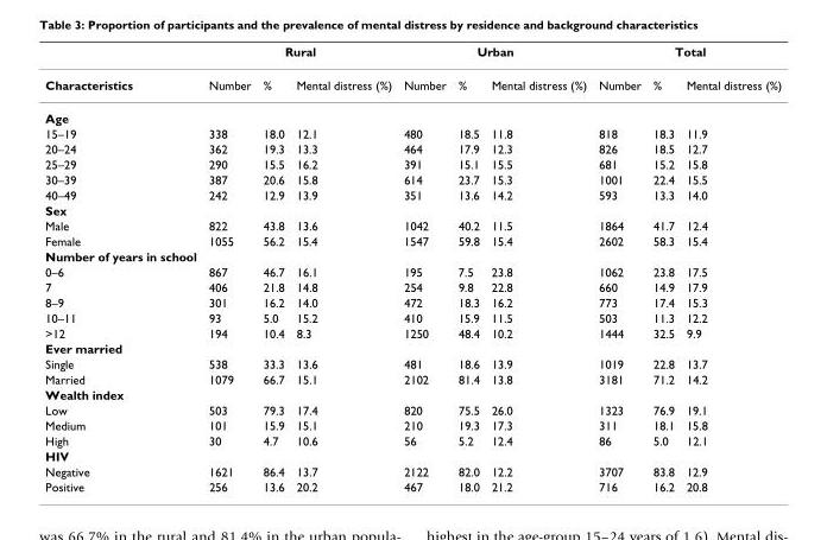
<table><thead><tr><td rowspan="2">Characteristics</td><td colspan="3">Rural</td><td colspan="3">Urban</td><td colspan="3">Total</td></tr><tr><td>Number</td><td>%</td><td>Mental distress (%)</td><td>Number</td><td>%</td><td>Mental distress (%)</td><td>Number</td><td>%</td><td>Mental distress (%)</td></tr></thead><tbody><tr><td colspan="10">Age</td></tr><tr><td>15–19</td><td>338</td><td>18.0</td><td>12.1</td><td>480</td><td>18.5</td><td>11.8</td><td>818</td><td>18.3</td><td>11.9</td></tr><tr><td>20–24</td><td>362</td><td>19.3</td><td>13.3</td><td>464</td><td>17.9</td><td>12.3</td><td>826</td><td>18.5</td><td>12.7</td></tr><tr><td>25–29</td><td>290</td><td>15.5</td><td>16.2</td><td>391</td><td>15.1</td><td>15.5</td><td>681</td><td>15.2</td><td>15.8</td></tr><tr><td>30–39</td><td>387</td><td>20.6</td><td>15.8</td><td>614</td><td>23.7</td><td>15.3</td><td>1001</td><td>22.4</td><td>15.5</td></tr><tr><td>40–49</td><td>242</td><td>12.9</td><td>13.9</td><td>351</td><td>13.6</td><td>14.2</td><td>593</td><td>13.3</td><td>14.0</td></tr><tr><td colspan="10">Sex</td></tr><tr><td>Male</td><td>822</td><td>43.8</td><td>13.6</td><td>1042</td><td>40.2</td><td>11.5</td><td>1864</td><td>41.7</td><td>12.4</td></tr><tr><td>Female</td><td>1055</td><td>56.2</td><td>15.4</td><td>1547</td><td>59.8</td><td>15.4</td><td>2602</td><td>58.3</td><td>15.4</td></tr><tr><td colspan="10">Number of years in school</td></tr><tr><td>0–6</td><td>867</td><td>46.7</td><td>16.1</td><td>195</td><td>7.5</td><td>23.8</td><td>1062</td><td>23.8</td><td>17.5</td></tr><tr><td>7</td><td>406</td><td>21.8</td><td>14.8</td><td>254</td><td>9.8</td><td>22.8</td><td>660</td><td>14.9</td><td>17.9</td></tr><tr><td>8–9</td><td>301</td><td>16.2</td><td>14.0</td><td>472</td><td>18.3</td><td>16.2</td><td>773</td><td>17.4</td><td>15.3</td></tr><tr><td>10–11</td><td>93</td><td>5.0</td><td>15.2</td><td>410</td><td>15.9</td><td>11.5</td><td>503</td><td>11.3</td><td>12.2</td></tr><tr><td>&gt;12</td><td>194</td><td>10.4</td><td>8.3</td><td>1250</td><td>48.4</td><td>10.2</td><td>1444</td><td>32.5</td><td>9.9</td></tr><tr><td colspan="10">Ever married</td></tr><tr><td>Single</td><td>538</td><td>33.3</td><td>13.6</td><td>481</td><td>18.6</td><td>13.9</td><td>1019</td><td>22.8</td><td>13.7</td></tr><tr><td>Married</td><td>1079</td><td>66.7</td><td>15.1</td><td>2102</td><td>81.4</td><td>13.8</td><td>3181</td><td>71.2</td><td>14.2</td></tr><tr><td colspan="10">Wealth index</td></tr><tr><td>Low</td><td>503</td><td>79.3</td><td>17.4</td><td>820</td><td>75.5</td><td>26.0</td><td>1323</td><td>76.9</td><td>19.1</td></tr><tr><td>Medium</td><td>101</td><td>15.9</td><td>15.1</td><td>210</td><td>19.3</td><td>17.3</td><td>311</td><td>18.1</td><td>15.8</td></tr><tr><td>High</td><td>30</td><td>4.7</td><td>10.6</td><td>56</td><td>5.2</td><td>12.4</td><td>86</td><td>5.0</td><td>12.1</td></tr><tr><td colspan="10">HIV</td></tr><tr><td>Negative</td><td>1621</td><td>86.4</td><td>13.7</td><td>2122</td><td>82.0</td><td>12.2</td><td>3707</td><td>83.8</td><td>12.9</td></tr><tr><td>Positive</td><td>256</td><td>13.6</td><td>20.2</td><td>467</td><td>18.0</td><td>21.2</td><td>716</td><td>16.2</td><td>20.8</td></tr></tbody></table>